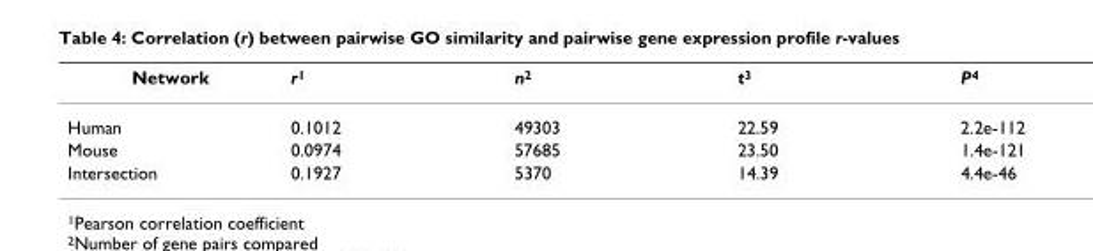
<table><thead><tr><td>Network</td><td>r<sup>1</sup></td><td>n<sup>2</sup></td><td>t<sup>3</sup></td><td>P<sup>4</sup></td></tr></thead><tbody><tr><td>Human</td><td>0.1012</td><td>49303</td><td>22.59</td><td>2.2e-112</td></tr><tr><td>Mouse</td><td>0.0974</td><td>57685</td><td>23.50</td><td>1.4e-121</td></tr><tr><td>Intersection</td><td>0.1927</td><td>5370</td><td>14.39</td><td>4.4e-46</td></tr></tbody></table>